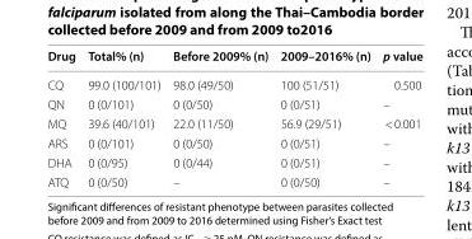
<table><thead><tr><td>Drug</td><td>Total% (n)</td><td>Before 2009% (n)</td><td>2009–2016% (n)</td><td>p value</td></tr></thead><tbody><tr><td>CQ</td><td>99.0 (100/101)</td><td>98.0 (49/50)</td><td>100 (51/51)</td><td>0.500</td></tr><tr><td>QN</td><td>0 (0/101)</td><td>0 (0/50)</td><td>0 (0/51)</td><td>–</td></tr><tr><td>MQ</td><td>39.6 (40/101)</td><td>22.0 (11/50)</td><td>56.9 (29/51)</td><td>&lt; 0.001</td></tr><tr><td>ARS</td><td>0 (0/101)</td><td>0 (0/50)</td><td>0 (0/51)</td><td>–</td></tr><tr><td>DHA</td><td>0 (0/95)</td><td>0 (0/44)</td><td>0 (0/51)</td><td>–</td></tr><tr><td>ATQ</td><td>0 (0/50)</td><td>–</td><td>0 (0/50)</td><td>–</td></tr></tbody></table>